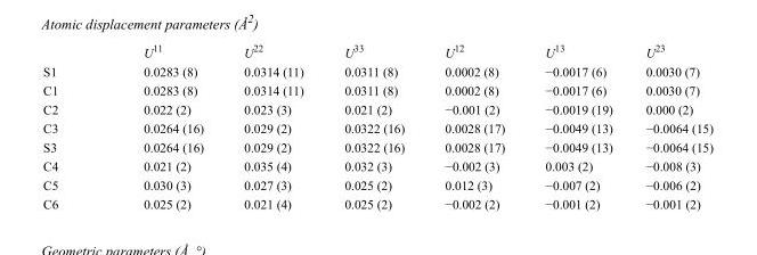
<table><thead><tr><td></td><td>U<sup>11</sup></td><td>U<sup>22</sup></td><td>U<sup>33</sup></td><td>U<sup>12</sup></td><td>U<sup>13</sup></td><td>U<sup>23</sup></td></tr></thead><tbody><tr><td>S1</td><td>0.0283 (8)</td><td>0.0314 (11)</td><td>0.0311 (8)</td><td>0.0002 (8)</td><td>−0.0017 (6)</td><td>0.0030 (7)</td></tr><tr><td>C1</td><td>0.0283 (8)</td><td>0.0314 (11)</td><td>0.0311 (8)</td><td>0.0002 (8)</td><td>−0.0017 (6)</td><td>0.0030 (7)</td></tr><tr><td>C2</td><td>0.022 (2)</td><td>0.023 (3)</td><td>0.021 (2)</td><td>−0.001 (2)</td><td>−0.0019 (19)</td><td>0.000 (2)</td></tr><tr><td>C3</td><td>0.0264 (16)</td><td>0.029 (2)</td><td>0.0322 (16)</td><td>0.0028 (17)</td><td>−0.0049 (13)</td><td>−0.0064 (15)</td></tr><tr><td>S3</td><td>0.0264 (16)</td><td>0.029 (2)</td><td>0.0322 (16)</td><td>0.0028 (17)</td><td>−0.0049 (13)</td><td>−0.0064 (15)</td></tr><tr><td>C4</td><td>0.021 (2)</td><td>0.035 (4)</td><td>0.032 (3)</td><td>−0.002 (3)</td><td>0.003 (2)</td><td>−0.008 (3)</td></tr><tr><td>C5</td><td>0.030 (3)</td><td>0.027 (3)</td><td>0.025 (2)</td><td>0.012 (3)</td><td>−0.007 (2)</td><td>−0.006 (2)</td></tr><tr><td>C6</td><td>0.025 (2)</td><td>0.021 (4)</td><td>0.025 (2)</td><td>−0.002 (2)</td><td>−0.001 (2)</td><td>−0.001 (2)</td></tr></tbody></table>